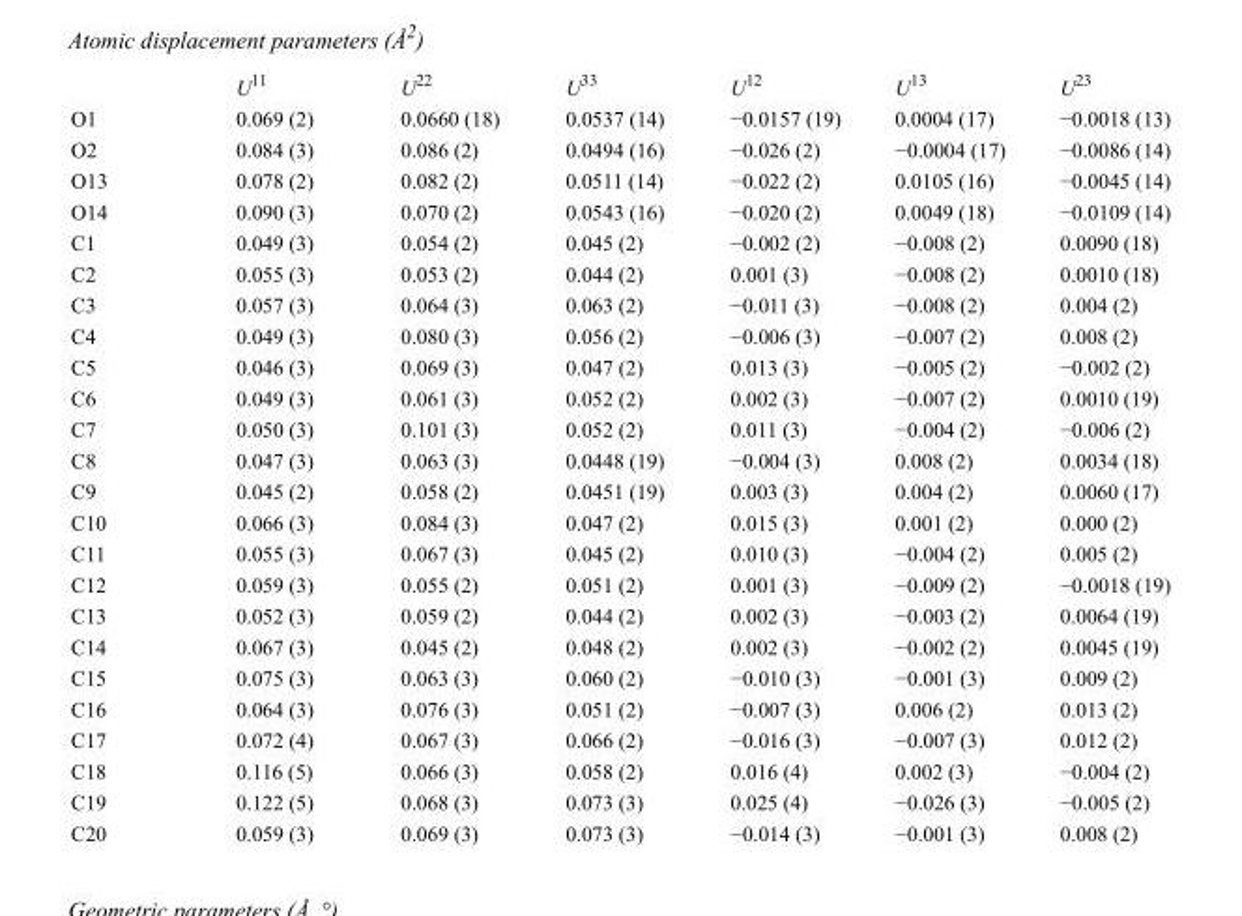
<table><thead><tr><td></td><td>U<sup>11</sup></td><td>U<sup>22</sup></td><td>U<sup>33</sup></td><td>U<sup>12</sup></td><td>U<sup>13</sup></td><td>U<sup>23</sup></td></tr></thead><tbody><tr><td>O1</td><td>0.069 (2)</td><td>0.0660 (18)</td><td>0.0537 (14)</td><td>−0.0157 (19)</td><td>0.0004 (17)</td><td>−0.0018 (13)</td></tr><tr><td>O2</td><td>0.084 (3)</td><td>0.086 (2)</td><td>0.0494 (16)</td><td>−0.026 (2)</td><td>−0.0004 (17)</td><td>−0.0086 (14)</td></tr><tr><td>O13</td><td>0.078 (2)</td><td>0.082 (2)</td><td>0.0511 (14)</td><td>−0.022 (2)</td><td>0.0105 (16)</td><td>−0.0045 (14)</td></tr><tr><td>O14</td><td>0.090 (3)</td><td>0.070 (2)</td><td>0.0543 (16)</td><td>−0.020 (2)</td><td>0.0049 (18)</td><td>−0.0109 (14)</td></tr><tr><td>C1</td><td>0.049 (3)</td><td>0.054 (2)</td><td>0.045 (2)</td><td>−0.002 (2)</td><td>−0.008 (2)</td><td>0.0090 (18)</td></tr><tr><td>C2</td><td>0.055 (3)</td><td>0.053 (2)</td><td>0.044 (2)</td><td>0.001 (3)</td><td>−0.008 (2)</td><td>0.0010 (18)</td></tr><tr><td>C3</td><td>0.057 (3)</td><td>0.064 (3)</td><td>0.063 (2)</td><td>−0.011 (3)</td><td>−0.008 (2)</td><td>0.004 (2)</td></tr><tr><td>C4</td><td>0.049 (3)</td><td>0.080 (3)</td><td>0.056 (2)</td><td>−0.006 (3)</td><td>−0.007 (2)</td><td>0.008 (2)</td></tr><tr><td>C5</td><td>0.046 (3)</td><td>0.069 (3)</td><td>0.047 (2)</td><td>0.013 (3)</td><td>−0.005 (2)</td><td>−0.002 (2)</td></tr><tr><td>C6</td><td>0.049 (3)</td><td>0.061 (3)</td><td>0.052 (2)</td><td>0.002 (3)</td><td>−0.007 (2)</td><td>0.0010 (19)</td></tr><tr><td>C7</td><td>0.050 (3)</td><td>0.101 (3)</td><td>0.052 (2)</td><td>0.011 (3)</td><td>−0.004 (2)</td><td>−0.006 (2)</td></tr><tr><td>C8</td><td>0.047 (3)</td><td>0.063 (3)</td><td>0.0448 (19)</td><td>−0.004 (3)</td><td>0.008 (2)</td><td>0.0034 (18)</td></tr><tr><td>C9</td><td>0.045 (2)</td><td>0.058 (2)</td><td>0.0451 (19)</td><td>0.003 (3)</td><td>0.004 (2)</td><td>0.0060 (17)</td></tr><tr><td>C10</td><td>0.066 (3)</td><td>0.084 (3)</td><td>0.047 (2)</td><td>0.015 (3)</td><td>0.001 (2)</td><td>0.000 (2)</td></tr><tr><td>C11</td><td>0.055 (3)</td><td>0.067 (3)</td><td>0.045 (2)</td><td>0.010 (3)</td><td>−0.004 (2)</td><td>0.005 (2)</td></tr><tr><td>C12</td><td>0.059 (3)</td><td>0.055 (2)</td><td>0.051 (2)</td><td>0.001 (3)</td><td>−0.009 (2)</td><td>−0.0018 (19)</td></tr><tr><td>C13</td><td>0.052 (3)</td><td>0.059 (2)</td><td>0.044 (2)</td><td>0.002 (3)</td><td>−0.003 (2)</td><td>0.0064 (19)</td></tr><tr><td>C14</td><td>0.067 (3)</td><td>0.045 (2)</td><td>0.048 (2)</td><td>0.002 (3)</td><td>−0.002 (2)</td><td>0.0045 (19)</td></tr><tr><td>C15</td><td>0.075 (3)</td><td>0.063 (3)</td><td>0.060 (2)</td><td>−0.010 (3)</td><td>−0.001 (3)</td><td>0.009 (2)</td></tr><tr><td>C16</td><td>0.064 (3)</td><td>0.076 (3)</td><td>0.051 (2)</td><td>−0.007 (3)</td><td>0.006 (2)</td><td>0.013 (2)</td></tr><tr><td>C17</td><td>0.072 (4)</td><td>0.067 (3)</td><td>0.066 (2)</td><td>−0.016 (3)</td><td>−0.007 (3)</td><td>0.012 (2)</td></tr><tr><td>C18</td><td>0.116 (5)</td><td>0.066 (3)</td><td>0.058 (2)</td><td>0.016 (4)</td><td>0.002 (3)</td><td>−0.004 (2)</td></tr><tr><td>C19</td><td>0.122 (5)</td><td>0.068 (3)</td><td>0.073 (3)</td><td>0.025 (4)</td><td>−0.026 (3)</td><td>−0.005 (2)</td></tr><tr><td>C20</td><td>0.059 (3)</td><td>0.069 (3)</td><td>0.073 (3)</td><td>−0.014 (3)</td><td>−0.001 (3)</td><td>0.008 (2)</td></tr></tbody></table>